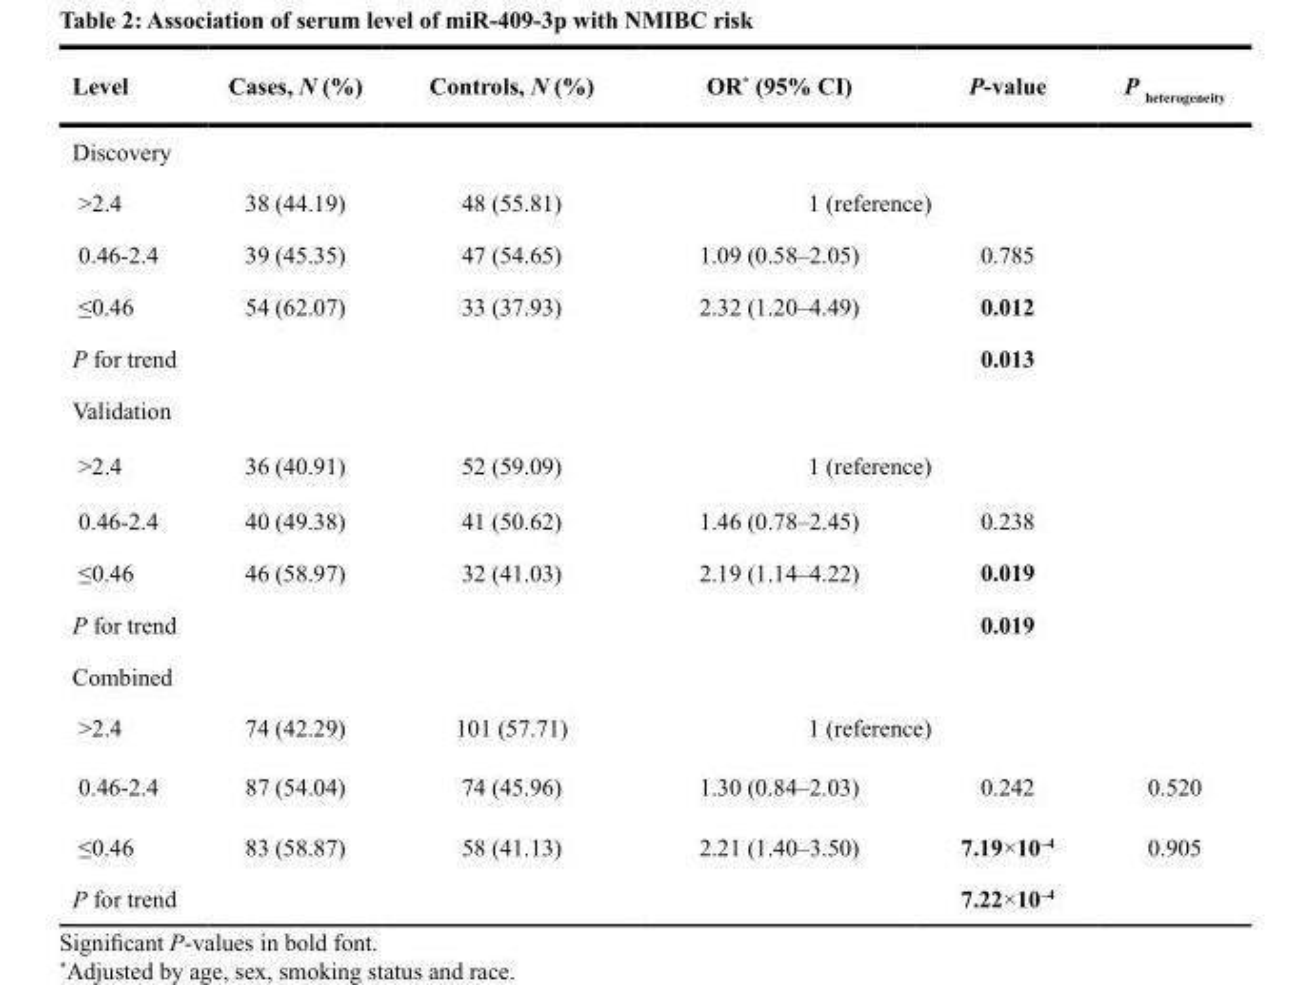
<table><thead><tr><td>Level</td><td>Cases, N (%)</td><td>Controls, N (%)</td><td>OR* (95% CI)</td><td>P-value</td><td>P <sub>heterogeneity</sub></td></tr></thead><tbody><tr><td colspan="6">Discovery</td></tr><tr><td>&gt;2.4</td><td>38 (44.19)</td><td>48 (55.81)</td><td colspan="2">1 (reference)</td><td></td></tr><tr><td>0.46-2.4</td><td>39 (45.35)</td><td>47 (54.65)</td><td>1.09 (0.58–2.05)</td><td>0.785</td><td></td></tr><tr><td>≤0.46</td><td>54 (62.07)</td><td>33 (37.93)</td><td>2.32 (1.20–4.49)</td><td>0.012</td><td></td></tr><tr><td>P for trend</td><td></td><td></td><td></td><td>0.013</td><td></td></tr><tr><td colspan="6">Validation</td></tr><tr><td>&gt;2.4</td><td>36 (40.91)</td><td>52 (59.09)</td><td colspan="2">1 (reference)</td><td></td></tr><tr><td>0.46-2.4</td><td>40 (49.38)</td><td>41 (50.62)</td><td>1.46 (0.78–2.45)</td><td>0.238</td><td></td></tr><tr><td>≤0.46</td><td>46 (58.97)</td><td>32 (41.03)</td><td>2.19 (1.14–4.22)</td><td>0.019</td><td></td></tr><tr><td>P for trend</td><td></td><td></td><td></td><td>0.019</td><td></td></tr><tr><td colspan="6">Combined</td></tr><tr><td>&gt;2.4</td><td>74 (42.29)</td><td>101 (57.71)</td><td colspan="2">1 (reference)</td><td></td></tr><tr><td>0.46-2.4</td><td>87 (54.04)</td><td>74 (45.96)</td><td>1.30 (0.84–2.03)</td><td>0.242</td><td>0.520</td></tr><tr><td>≤0.46</td><td>83 (58.87)</td><td>58 (41.13)</td><td>2.21 (1.40–3.50)</td><td>7.19×10<sup>–4</sup></td><td>0.905</td></tr><tr><td>P for trend</td><td></td><td></td><td></td><td>7.22×10<sup>–4</sup></td><td></td></tr></tbody></table>